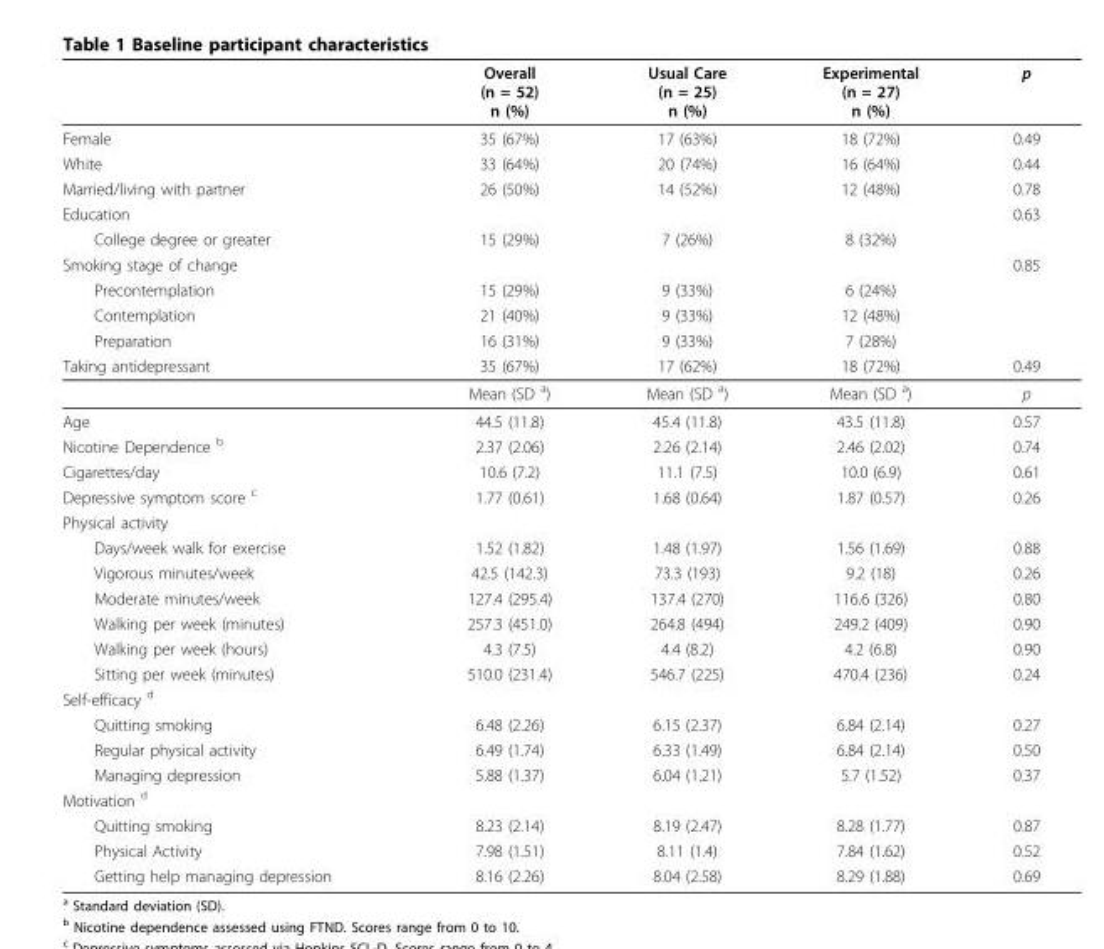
<table><thead><tr><td></td><td>Overall (n = 52) n (%)</td><td>Usual Care (n = 25) n (%)</td><td>Experimental (n = 27) n (%)</td><td>p</td></tr></thead><tbody><tr><td>Female</td><td>35 (67%)</td><td>17 (63%)</td><td>18 (72%)</td><td>0.49</td></tr><tr><td>White</td><td>33 (64%)</td><td>20 (74%)</td><td>16 (64%)</td><td>0.44</td></tr><tr><td>Married/living with partner</td><td>26 (50%)</td><td>14 (52%)</td><td>12 (48%)</td><td>0.78</td></tr><tr><td>Education</td><td></td><td></td><td></td><td>0.63</td></tr><tr><td>College degree or greater</td><td>15 (29%)</td><td>7 (26%)</td><td>8 (32%)</td><td></td></tr><tr><td>Smoking stage of change</td><td></td><td></td><td></td><td>0.85</td></tr><tr><td>Precontemplation</td><td>15 (29%)</td><td>9 (33%)</td><td>6 (24%)</td><td></td></tr><tr><td>Contemplation</td><td>21 (40%)</td><td>9 (33%)</td><td>12 (48%)</td><td></td></tr><tr><td>Preparation</td><td>16 (31%)</td><td>9 (33%)</td><td>7 (28%)</td><td></td></tr><tr><td rowspan="2">Taking antidepressant</td><td>35 (67%)</td><td>17 (62%)</td><td>18 (72%)</td><td>0.49</td></tr><tr><td>Mean (SD <sup>a</sup>)</td><td>Mean (SD <sup>a</sup>)</td><td>Mean (SD <sup>a</sup>)</td><td>p</td></tr><tr><td>Age</td><td>44.5 (11.8)</td><td>45.4 (11.8)</td><td>43.5 (11.8)</td><td>0.57</td></tr><tr><td>Nicotine Dependence <sup>b</sup></td><td>2.37 (2.06)</td><td>2.26 (2.14)</td><td>2.46 (2.02)</td><td>0.74</td></tr><tr><td>Cigarettes/day</td><td>10.6 (7.2)</td><td>11.1 (7.5)</td><td>10.0 (6.9)</td><td>0.61</td></tr><tr><td>Depressive symptom score <sup>c</sup></td><td>1.77 (0.61)</td><td>1.68 (0.64)</td><td>1.87 (0.57)</td><td>0.26</td></tr><tr><td colspan="5">Physical activity</td></tr><tr><td>Days/week walk for exercise</td><td>1.52 (1.82)</td><td>1.48 (1.97)</td><td>1.56 (1.69)</td><td>0.88</td></tr><tr><td>Vigorous minutes/week</td><td>42.5 (142.3)</td><td>73.3 (193)</td><td>9.2 (18)</td><td>0.26</td></tr><tr><td>Moderate minutes/week</td><td>127.4 (295.4)</td><td>137.4 (270)</td><td>116.6 (326)</td><td>0.80</td></tr><tr><td>Walking per week (minutes)</td><td>257.3 (451.0)</td><td>264.8 (494)</td><td>249.2 (409)</td><td>0.90</td></tr><tr><td>Walking per week (hours)</td><td>4.3 (7.5)</td><td>4.4 (8.2)</td><td>4.2 (6.8)</td><td>0.90</td></tr><tr><td>Sitting per week (minutes)</td><td>510.0 (231.4)</td><td>546.7 (225)</td><td>470.4 (236)</td><td>0.24</td></tr><tr><td colspan="5">Self-efficacy <sup>d</sup></td></tr><tr><td>Quitting smoking</td><td>6.48 (2.26)</td><td>6.15 (2.37)</td><td>6.84 (2.14)</td><td>0.27</td></tr><tr><td>Regular physical activity</td><td>6.49 (1.74)</td><td>6.33 (1.49)</td><td>6.84 (2.14)</td><td>0.50</td></tr><tr><td>Managing depression</td><td>5.88 (1.37)</td><td>6.04 (1.21)</td><td>5.7 (1.52)</td><td>0.37</td></tr><tr><td colspan="5">Motivation <sup>d</sup></td></tr><tr><td>Quitting smoking</td><td>8.23 (2.14)</td><td>8.19 (2.47)</td><td>8.28 (1.77)</td><td>0.87</td></tr><tr><td>Physical Activity</td><td>7.98 (1.51)</td><td>8.11 (1.4)</td><td>7.84 (1.62)</td><td>0.52</td></tr><tr><td>Getting help managing depression</td><td>8.16 (2.26)</td><td>8.04 (2.58)</td><td>8.29 (1.88)</td><td>0.69</td></tr></tbody></table>